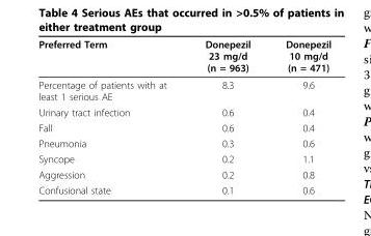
<table><thead><tr><td>Preferred Term</td><td>Donepezil 23 mg/d (n = 963)</td><td>Donepezil 10 mg/d (n = 471)</td></tr></thead><tbody><tr><td>Percentage of patients with at least 1 serious AE</td><td>8.3</td><td>9.6</td></tr><tr><td>Urinary tract infection</td><td>0.6</td><td>0.4</td></tr><tr><td>Fall</td><td>0.6</td><td>0.4</td></tr><tr><td>Pneumonia</td><td>0.3</td><td>0.6</td></tr><tr><td>Syncope</td><td>0.2</td><td>1.1</td></tr><tr><td>Aggression</td><td>0.2</td><td>0.8</td></tr><tr><td>Confusional state</td><td>0.1</td><td>0.6</td></tr></tbody></table>